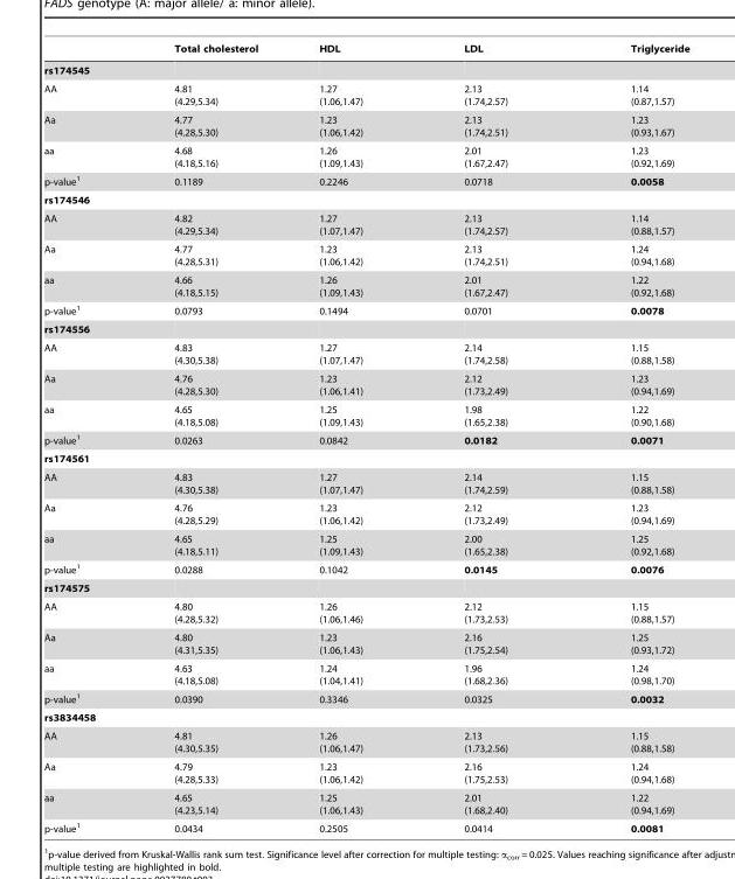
<table><thead><tr><td></td><td>Total cholesterol</td><td>HDL</td><td>LDL</td><td>Triglyceride</td></tr></thead><tbody><tr><td colspan="5">rs174545</td></tr><tr><td>AA</td><td>4.81 (4.29,5.34)</td><td>1.27 (1.06,1.47)</td><td>2.13 (1.74,2.57)</td><td>1.14 (0.87,1.57)</td></tr><tr><td>Aa</td><td>4.77 (4.28,5.30)</td><td>1.23 (1.06,1.42)</td><td>2.13 (1.74,2.51)</td><td>1.23 (0.93,1.67)</td></tr><tr><td>aa</td><td>4.68 (4.18,5.16)</td><td>1.26 (1.09,1.43)</td><td>2.01 (1.67,2.47)</td><td>1.23 (0.92,1.69)</td></tr><tr><td>p-value<sup>1</sup></td><td>0.1189</td><td>0.2246</td><td>0.0718</td><td>0.0058</td></tr><tr><td colspan="5">rs174546</td></tr><tr><td>AA</td><td>4.82 (4.29,5.34)</td><td>1.27 (1.07,1.47)</td><td>2.13 (1.74,2.57)</td><td>1.14 (0.88,1.57)</td></tr><tr><td>Aa</td><td>4.77 (4.28,5.31)</td><td>1.23 (1.06,1.42)</td><td>2.13 (1.74,2.51)</td><td>1.24 (0.94,1.68)</td></tr><tr><td>aa</td><td>4.66 (4.18,5.15)</td><td>1.26 (1.09,1.43)</td><td>2.01 (1.67,2.47)</td><td>1.22 (0.92,1.68)</td></tr><tr><td>p-value<sup>1</sup></td><td>0.0793</td><td>0.1494</td><td>0.0701</td><td>0.0078</td></tr><tr><td colspan="5">rs174556</td></tr><tr><td>AA</td><td>4.83 (4.30,5.38)</td><td>1.27 (1.07,1.47)</td><td>2.14 (1.74,2.58)</td><td>1.15 (0.88,1.58)</td></tr><tr><td>Aa</td><td>4.76 (4.28,5.30)</td><td>1.23 (1.06,1.41)</td><td>2.12 (1.73,2.49)</td><td>1.23 (0.94,1.69)</td></tr><tr><td>aa</td><td>4.65 (4.18,5.08)</td><td>1.25 (1.09,1.43)</td><td>1.98 (1.65,2.38)</td><td>1.22 (0.90,1.68)</td></tr><tr><td>p-value<sup>1</sup></td><td>0.0263</td><td>0.0842</td><td>0.0182</td><td>0.0071</td></tr><tr><td colspan="5">rs174561</td></tr><tr><td>AA</td><td>4.83 (4.30,5.38)</td><td>1.27 (1.07,1.47)</td><td>2.14 (1.74,2.59)</td><td>1.15 (0.88,1.58)</td></tr><tr><td>Aa</td><td>4.76 (4.28,5.29)</td><td>1.23 (1.06,1.42)</td><td>2.12 (1.73,2.49)</td><td>1.23 (0.94,1.69)</td></tr><tr><td>aa</td><td>4.65 (4.18,5.11)</td><td>1.25 (1.09,1.43)</td><td>2.00 (1.65,2.38)</td><td>1.25 (0.92,1.68)</td></tr><tr><td>p-value<sup>1</sup></td><td>0.0288</td><td>0.1042</td><td>0.0145</td><td>0.0076</td></tr><tr><td colspan="5">rs174575</td></tr><tr><td>AA</td><td>4.80 (4.28,5.32)</td><td>1.26 (1.06,1.46)</td><td>2.12 (1.73,2.53)</td><td>1.15 (0.88,1.57)</td></tr><tr><td>Aa</td><td>4.80 (4.31,5.35)</td><td>1.23 (1.06,1.43)</td><td>2.16 (1.75,2.54)</td><td>1.25 (0.93,1.72)</td></tr><tr><td>aa</td><td>4.63 (4.18,5.08)</td><td>1.24 (1.04,1.41)</td><td>1.96 (1.68,2.36)</td><td>1.24 (0.98,1.70)</td></tr><tr><td>p-value<sup>1</sup></td><td>0.0390</td><td>0.3346</td><td>0.0325</td><td>0.0032</td></tr><tr><td colspan="5">rs3834458</td></tr><tr><td>AA</td><td>4.81 (4.30,5.35)</td><td>1.26 (1.06,1.47)</td><td>2.13 (1.73,2.56)</td><td>1.15 (0.88,1.58)</td></tr><tr><td>Aa</td><td>4.79 (4.28,5.33)</td><td>1.23 (1.06,1.42)</td><td>2.16 (1.75,2.53)</td><td>1.24 (0.94,1.68)</td></tr><tr><td>aa</td><td>4.65 (4.23,5.14)</td><td>1.25 (1.06,1.43)</td><td>2.01 (1.68,2.40)</td><td>1.22 (0.94,1.69)</td></tr><tr><td>p-value<sup>1</sup></td><td>0.0434</td><td>0.2505</td><td>0.0414</td><td>0.0081</td></tr></tbody></table>